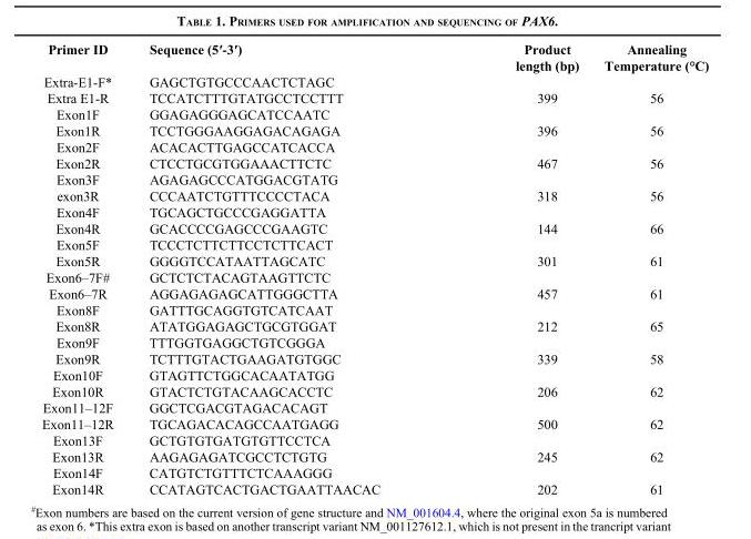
<table><thead><tr><td>Primer ID</td><td>Sequence (5′-3′)</td><td>Product length (bp)</td><td>Annealing Temperature (°C)</td></tr></thead><tbody><tr><td>Extra-E1-F*</td><td>GAGCTGTGCCCAACTCTAGC</td><td></td><td></td></tr><tr><td>Extra E1-R</td><td>TCCATCTTTGTATGCCTCCTTT</td><td>399</td><td>56</td></tr><tr><td>Exon1F</td><td>GGAGAGGGAGCATCCAATC</td><td></td><td></td></tr><tr><td>Exon1R</td><td>TCCTGGGAAGGAGACAGAGA</td><td>396</td><td>56</td></tr><tr><td>Exon2F</td><td>ACACACTTGAGCCATCACCA</td><td></td><td></td></tr><tr><td>Exon2R</td><td>CTCCTGCGTGGAAACTTCTC</td><td>467</td><td>56</td></tr><tr><td>Exon3F</td><td>AGAGAGCCCATGGACGTATG</td><td></td><td></td></tr><tr><td>exon3R</td><td>CCCAATCTGTTTCCCCTACA</td><td>318</td><td>56</td></tr><tr><td>Exon4F</td><td>TGCAGCTGCCCGAGGATTA</td><td></td><td></td></tr><tr><td>Exon4R</td><td>GCACCCCGAGCCCGAAGTC</td><td>144</td><td>66</td></tr><tr><td>Exon5F</td><td>TCCCTCTTCTTCCTCTTCACT</td><td></td><td></td></tr><tr><td>Exon5R</td><td>GGGGTCCATAATTAGCATC</td><td>301</td><td>61</td></tr><tr><td>Exon6–7F#</td><td>GCTCTCTACAGTAAGTTCTC</td><td></td><td></td></tr><tr><td>Exon6–7R</td><td>AGGAGAGAGCATTGGGCTTA</td><td>457</td><td>61</td></tr><tr><td>Exon8F</td><td>GATTTGCAGGTGTCATCAAT</td><td></td><td></td></tr><tr><td>Exon8R</td><td>ATATGGAGAGCTGCGTGGAT</td><td>212</td><td>65</td></tr><tr><td>Exon9F</td><td>TTTGGTGAGGCTGTCGGGA</td><td></td><td></td></tr><tr><td>Exon9R</td><td>TCTTTGTACTGAAGATGTGGC</td><td>339</td><td>58</td></tr><tr><td>Exon10F</td><td>GTAGTTCTGGCACAATATGG</td><td></td><td></td></tr><tr><td>Exon10R</td><td>GTACTCTGTACAAGCACCTC</td><td>206</td><td>62</td></tr><tr><td>Exon11–12F</td><td>GGCTCGACGTAGACACAGT</td><td></td><td></td></tr><tr><td>Exon11–12R</td><td>TGCAGACACAGCCAATGAGG</td><td>500</td><td>62</td></tr><tr><td>Exon13F</td><td>GCTGTGTGATGTGTTCCTCA</td><td></td><td></td></tr><tr><td>Exon13R</td><td>AAGAGAGATCGCCTCTGTG</td><td>245</td><td>62</td></tr><tr><td>Exon14F</td><td>CATGTCTGTTTCTCAAAGGG</td><td></td><td></td></tr><tr><td>Exon14R</td><td>CCATAGTCACTGACTGAATTAACAC</td><td>202</td><td>61</td></tr></tbody></table>